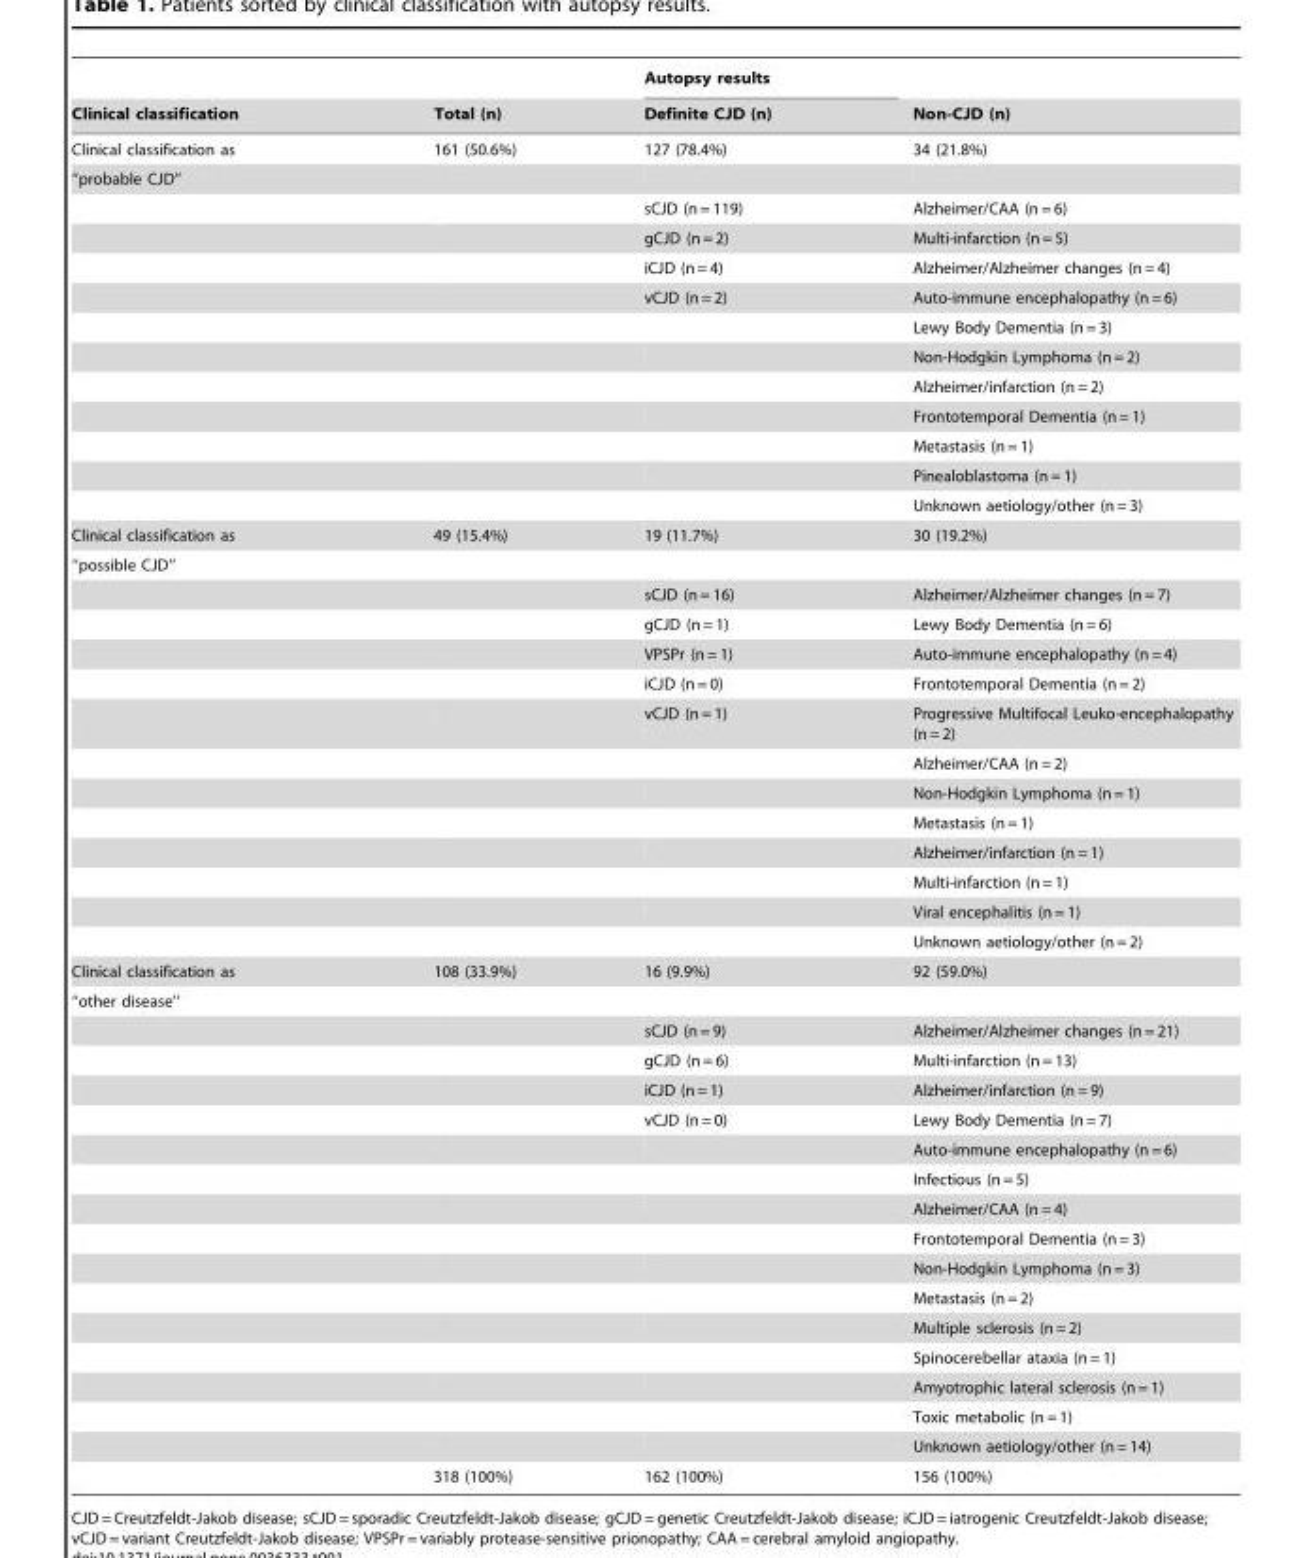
<table><thead><tr><td rowspan="2">Clinical classification</td><td rowspan="2">Total (n)</td><td rowspan="2">Autopsy results Definite CJD (n)</td><td rowspan="2">Non-CJD (n)</td></tr><tr></tr></thead><tbody><tr><td>Clinical classification as</td><td>161 (50.6%)</td><td>127 (78.4%)</td><td>34 (21.8%)</td></tr><tr><td colspan="4">‘‘probable CJD’’</td></tr><tr><td></td><td></td><td>sCJD (n = 119)</td><td>Alzheimer/CAA (n = 6)</td></tr><tr><td></td><td></td><td>gCJD (n = 2)</td><td>Multi-infarction (n = 5)</td></tr><tr><td></td><td></td><td>iCJD (n = 4)</td><td>Alzheimer/Alzheimer changes (n = 4)</td></tr><tr><td></td><td></td><td>vCJD (n = 2)</td><td>Auto-immune encephalopathy (n = 6)</td></tr><tr><td></td><td></td><td></td><td>Lewy Body Dementia (n = 3)</td></tr><tr><td></td><td></td><td></td><td>Non-Hodgkin Lymphoma (n = 2)</td></tr><tr><td></td><td></td><td></td><td>Alzheimer/infarction (n = 2)</td></tr><tr><td></td><td></td><td></td><td>Frontotemporal Dementia (n = 1)</td></tr><tr><td></td><td></td><td></td><td>Metastasis (n = 1)</td></tr><tr><td></td><td></td><td></td><td>Pinealoblastoma (n = 1)</td></tr><tr><td></td><td></td><td></td><td>Unknown aetiology/other (n = 3)</td></tr><tr><td>Clinical classification as</td><td>49 (15.4%)</td><td>19 (11.7%)</td><td>30 (19.2%)</td></tr><tr><td colspan="4">‘‘possible CJD’’</td></tr><tr><td></td><td></td><td>sCJD (n = 16)</td><td>Alzheimer/Alzheimer changes (n = 7)</td></tr><tr><td></td><td></td><td>gCJD (n = 1)</td><td>Lewy Body Dementia (n = 6)</td></tr><tr><td></td><td></td><td>VPSPr (n = 1)</td><td>Auto-immune encephalopathy (n = 4)</td></tr><tr><td></td><td></td><td>iCJD (n = 0)</td><td>Frontotemporal Dementia (n = 2)</td></tr><tr><td></td><td></td><td>vCJD (n = 1)</td><td>Progressive Multifocal Leuko-encephalopathy (n = 2)</td></tr><tr><td></td><td></td><td></td><td>Alzheimer/CAA (n = 2)</td></tr><tr><td></td><td></td><td></td><td>Non-Hodgkin Lymphoma (n = 1)</td></tr><tr><td></td><td></td><td></td><td>Metastasis (n = 1)</td></tr><tr><td></td><td></td><td></td><td>Alzheimer/infarction (n = 1)</td></tr><tr><td></td><td></td><td></td><td>Multi-infarction (n = 1)</td></tr><tr><td></td><td></td><td></td><td>Viral encephalitis (n = 1)</td></tr><tr><td></td><td></td><td></td><td>Unknown aetiology/other (n = 2)</td></tr><tr><td>Clinical classification as</td><td>108 (33.9%)</td><td>16 (9.9%)</td><td>92 (59.0%)</td></tr><tr><td colspan="4">‘‘other disease’’</td></tr><tr><td></td><td></td><td>sCJD (n = 9)</td><td>Alzheimer/Alzheimer changes (n = 21)</td></tr><tr><td></td><td></td><td>gCJD (n = 6)</td><td>Multi-infarction (n = 13)</td></tr><tr><td></td><td></td><td>iCJD (n = 1)</td><td>Alzheimer/infarction (n = 9)</td></tr><tr><td></td><td></td><td>vCJD (n = 0)</td><td>Lewy Body Dementia (n = 7)</td></tr><tr><td></td><td></td><td></td><td>Auto-immune encephalopathy (n = 6)</td></tr><tr><td></td><td></td><td></td><td>Infectious (n = 5)</td></tr><tr><td></td><td></td><td></td><td>Alzheimer/CAA (n = 4)</td></tr><tr><td></td><td></td><td></td><td>Frontotemporal Dementia (n = 3)</td></tr><tr><td></td><td></td><td></td><td>Non-Hodgkin Lymphoma (n = 3)</td></tr><tr><td></td><td></td><td></td><td>Metastasis (n = 2)</td></tr><tr><td></td><td></td><td></td><td>Multiple sclerosis (n = 2)</td></tr><tr><td></td><td></td><td></td><td>Spinocerebellar ataxia (n = 1)</td></tr><tr><td></td><td></td><td></td><td>Amyotrophic lateral sclerosis (n = 1)</td></tr><tr><td></td><td></td><td></td><td>Toxic metabolic (n = 1)</td></tr><tr><td></td><td></td><td></td><td>Unknown aetiology/other (n = 14)</td></tr><tr><td></td><td>318 (100%)</td><td>162 (100%)</td><td>156 (100%)</td></tr></tbody></table>